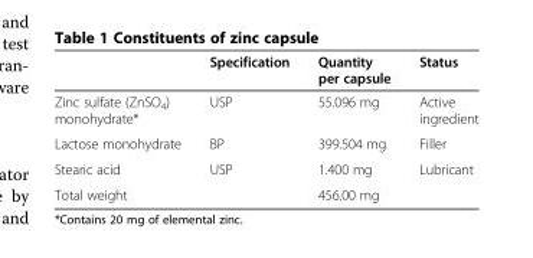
<table><thead><tr><td></td><td>Specification</td><td>Quantity per capsule</td><td>Status</td></tr></thead><tbody><tr><td>Zinc sulfate (ZnSO<sub>4</sub>) monohydrate*</td><td>USP</td><td>55.096 mg</td><td>Active ingredient</td></tr><tr><td>Lactose monohydrate</td><td>BP</td><td>399.504 mg</td><td>Filler</td></tr><tr><td>Stearic acid</td><td>USP</td><td>1.400 mg</td><td>Lubricant</td></tr><tr><td>Total weight</td><td></td><td>456.00 mg</td><td></td></tr></tbody></table>